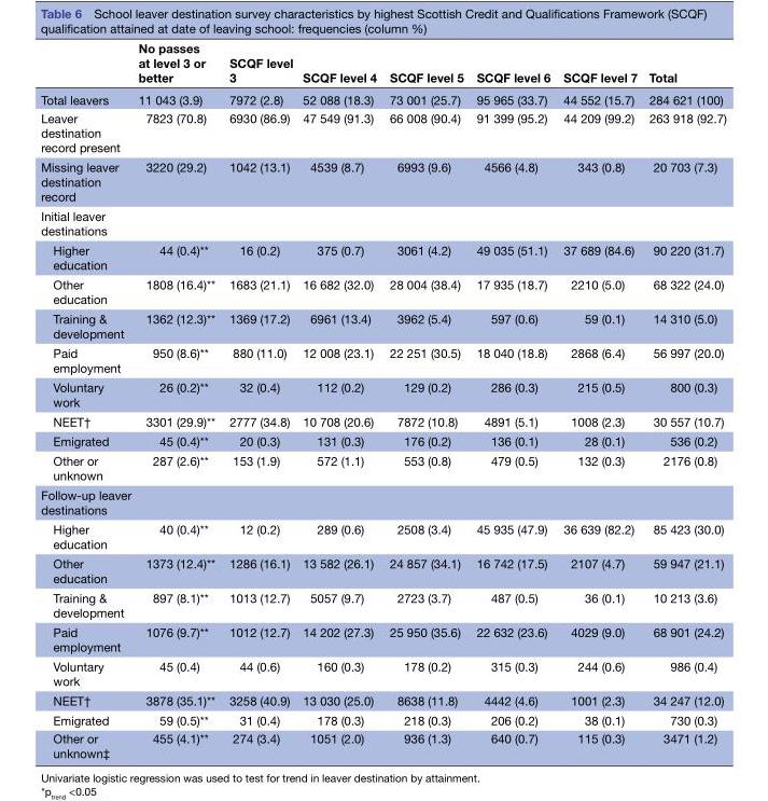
<table><thead><tr><td></td><td>No passes at level 3 or better</td><td>SCQF level 3</td><td>SCQF level 4</td><td>SCQF level 5</td><td>SCQF level 6</td><td>SCQF level 7</td><td>Total</td></tr></thead><tbody><tr><td>Total leavers</td><td>11 043 (3.9)</td><td>7972 (2.8)</td><td>52 088 (18.3)</td><td>73 001 (25.7)</td><td>95 965 (33.7)</td><td>44 552 (15.7)</td><td>284 621 (100)</td></tr><tr><td>Leaver destination record present</td><td>7823 (70.8)</td><td>6930 (86.9)</td><td>47 549 (91.3)</td><td>66 008 (90.4)</td><td>91 399 (95.2)</td><td>44 209 (99.2)</td><td>263 918 (92.7)</td></tr><tr><td>Missing leaver destination record</td><td>3220 (29.2)</td><td>1042 (13.1)</td><td>4539 (8.7)</td><td>6993 (9.6)</td><td>4566 (4.8)</td><td>343 (0.8)</td><td>20 703 (7.3)</td></tr><tr><td colspan="8">Initial leaver destinations</td></tr><tr><td>Higher education</td><td>44 (0.4)**</td><td>16 (0.2)</td><td>375 (0.7)</td><td>3061 (4.2)</td><td>49 035 (51.1)</td><td>37 689 (84.6)</td><td>90 220 (31.7)</td></tr><tr><td>Other education</td><td>1808 (16.4)**</td><td>1683 (21.1)</td><td>16 682 (32.0)</td><td>28 004 (38.4)</td><td>17 935 (18.7)</td><td>2210 (5.0)</td><td>68 322 (24.0)</td></tr><tr><td>Training &amp; development</td><td>1362 (12.3)**</td><td>1369 (17.2)</td><td>6961 (13.4)</td><td>3962 (5.4)</td><td>597 (0.6)</td><td>59 (0.1)</td><td>14 310 (5.0)</td></tr><tr><td>Paid employment</td><td>950 (8.6)**</td><td>880 (11.0)</td><td>12 008 (23.1)</td><td>22 251 (30.5)</td><td>18 040 (18.8)</td><td>2868 (6.4)</td><td>56 997 (20.0)</td></tr><tr><td>Voluntary work</td><td>26 (0.2)**</td><td>32 (0.4)</td><td>112 (0.2)</td><td>129 (0.2)</td><td>286 (0.3)</td><td>215 (0.5)</td><td>800 (0.3)</td></tr><tr><td>NEET†</td><td>3301 (29.9)**</td><td>2777 (34.8)</td><td>10 708 (20.6)</td><td>7872 (10.8)</td><td>4891 (5.1)</td><td>1008 (2.3)</td><td>30 557 (10.7)</td></tr><tr><td>Emigrated</td><td>45 (0.4)**</td><td>20 (0.3)</td><td>131 (0.3)</td><td>176 (0.2)</td><td>136 (0.1)</td><td>28 (0.1)</td><td>536 (0.2)</td></tr><tr><td>Other or unknown</td><td>287 (2.6)**</td><td>153 (1.9)</td><td>572 (1.1)</td><td>553 (0.8)</td><td>479 (0.5)</td><td>132 (0.3)</td><td>2176 (0.8)</td></tr><tr><td colspan="8">Follow-up leaver destinations</td></tr><tr><td>Higher education</td><td>40 (0.4)**</td><td>12 (0.2)</td><td>289 (0.6)</td><td>2508 (3.4)</td><td>45 935 (47.9)</td><td>36 639 (82.2)</td><td>85 423 (30.0)</td></tr><tr><td>Other education</td><td>1373 (12.4)**</td><td>1286 (16.1)</td><td>13 582 (26.1)</td><td>24 857 (34.1)</td><td>16 742 (17.5)</td><td>2107 (4.7)</td><td>59 947 (21.1)</td></tr><tr><td>Training &amp; development</td><td>897 (8.1)**</td><td>1013 (12.7)</td><td>5057 (9.7)</td><td>2723 (3.7)</td><td>487 (0.5)</td><td>36 (0.1)</td><td>10 213 (3.6)</td></tr><tr><td>Paid employment</td><td>1076 (9.7)**</td><td>1012 (12.7)</td><td>14 202 (27.3)</td><td>25 950 (35.6)</td><td>22 632 (23.6)</td><td>4029 (9.0)</td><td>68 901 (24.2)</td></tr><tr><td>Voluntary work</td><td>45 (0.4)</td><td>44 (0.6)</td><td>160 (0.3)</td><td>178 (0.2)</td><td>315 (0.3)</td><td>244 (0.6)</td><td>986 (0.4)</td></tr><tr><td>NEET†</td><td>3878 (35.1)**</td><td>3258 (40.9)</td><td>13 030 (25.0)</td><td>8638 (11.8)</td><td>4442 (4.6)</td><td>1001 (2.3)</td><td>34 247 (12.0)</td></tr><tr><td>Emigrated</td><td>59 (0.5)**</td><td>31 (0.4)</td><td>178 (0.3)</td><td>218 (0.3)</td><td>206 (0.2)</td><td>38 (0.1)</td><td>730 (0.3)</td></tr><tr><td>Other or unknown‡</td><td>455 (4.1)**</td><td>274 (3.4)</td><td>1051 (2.0)</td><td>936 (1.3)</td><td>640 (0.7)</td><td>115 (0.3)</td><td>3471 (1.2)</td></tr></tbody></table>